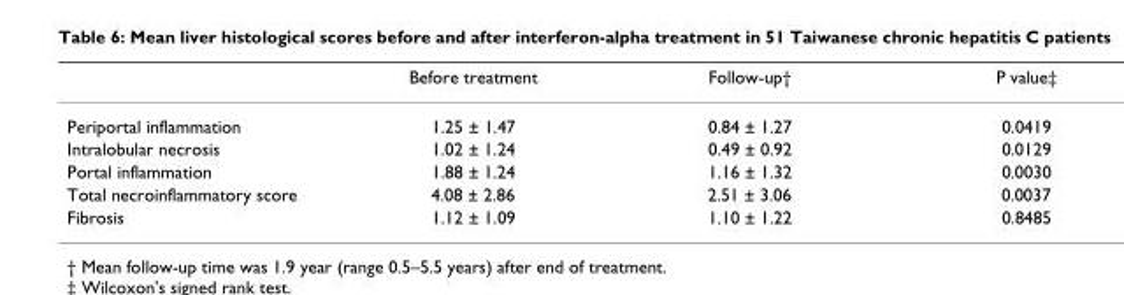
<table><thead><tr><td></td><td>Before treatment</td><td>Follow-up†</td><td>P value‡</td></tr></thead><tbody><tr><td>Periportal inflammation</td><td>1.25 ± 1.47</td><td>0.84 ± 1.27</td><td>0.0419</td></tr><tr><td>Intralobular necrosis</td><td>1.02 ± 1.24</td><td>0.49 ± 0.92</td><td>0.0129</td></tr><tr><td>Portal inflammation</td><td>1.88 ± 1.24</td><td>1.16 ± 1.32</td><td>0.0030</td></tr><tr><td>Total necroinflammatory score</td><td>4.08 ± 2.86</td><td>2.51 ± 3.06</td><td>0.0037</td></tr><tr><td>Fibrosis</td><td>1.12 ± 1.09</td><td>1.10 ± 1.22</td><td>0.8485</td></tr></tbody></table>